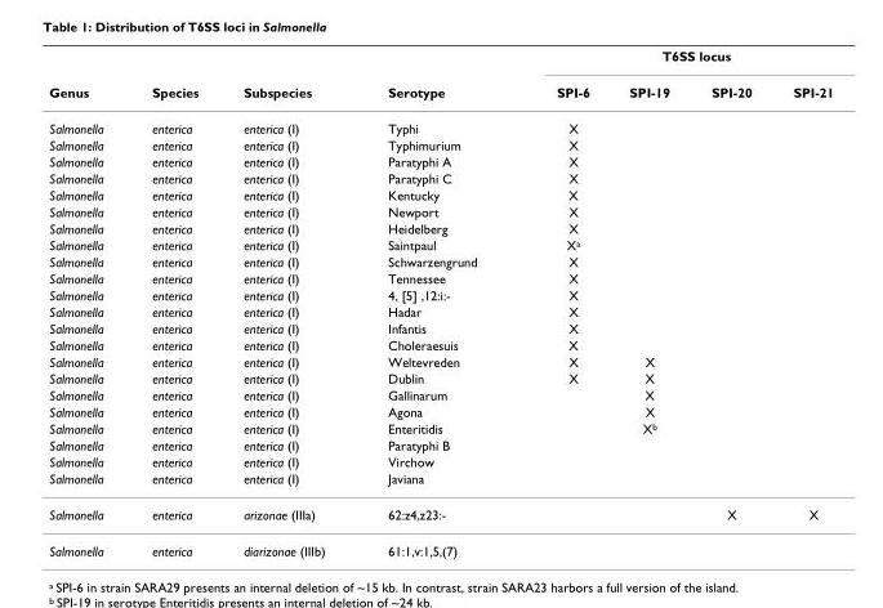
<table><thead><tr><td rowspan="2">Genus</td><td rowspan="2">Species</td><td rowspan="2">Subspecies</td><td rowspan="2">Serotype</td><td colspan="4">T6SS locus</td></tr><tr><td>SPI-6</td><td>SPI-19</td><td>SPI-20</td><td>SPI-21</td></tr></thead><tbody><tr><td>Salmonella</td><td>enterica</td><td>enterica (I)</td><td>Typhi</td><td>X</td><td></td><td></td><td></td></tr><tr><td>Salmonella</td><td>enterica</td><td>enterica (I)</td><td>Typhimurium</td><td>X</td><td></td><td></td><td></td></tr><tr><td>Salmonella</td><td>enterica</td><td>enterica (I)</td><td>Paratyphi A</td><td>X</td><td></td><td></td><td></td></tr><tr><td>Salmonella</td><td>enterica</td><td>enterica (I)</td><td>Paratyphi C</td><td>X</td><td></td><td></td><td></td></tr><tr><td>Salmonella</td><td>enterica</td><td>enterica (I)</td><td>Kentucky</td><td>X</td><td></td><td></td><td></td></tr><tr><td>Salmonella</td><td>enterica</td><td>enterica (I)</td><td>Newport</td><td>X</td><td></td><td></td><td></td></tr><tr><td>Salmonella</td><td>enterica</td><td>enterica (I)</td><td>Heidelberg</td><td>X</td><td></td><td></td><td></td></tr><tr><td>Salmonella</td><td>enterica</td><td>enterica (I)</td><td>Saintpaul</td><td>X<sup>a</sup></td><td></td><td></td><td></td></tr><tr><td>Salmonella</td><td>enterica</td><td>enterica (I)</td><td>Schwarzengrund</td><td>X</td><td></td><td></td><td></td></tr><tr><td>Salmonella</td><td>enterica</td><td>enterica (I)</td><td>Tennessee</td><td>X</td><td></td><td></td><td></td></tr><tr><td>Salmonella</td><td>enterica</td><td>enterica (I)</td><td>4, [5] ,12:i:-</td><td>X</td><td></td><td></td><td></td></tr><tr><td>Salmonella</td><td>enterica</td><td>enterica (I)</td><td>Hadar</td><td>X</td><td></td><td></td><td></td></tr><tr><td>Salmonella</td><td>enterica</td><td>enterica (I)</td><td>Infantis</td><td>X</td><td></td><td></td><td></td></tr><tr><td>Salmonella</td><td>enterica</td><td>enterica (I)</td><td>Choleraesuis</td><td>X</td><td></td><td></td><td></td></tr><tr><td>Salmonella</td><td>enterica</td><td>enterica (I)</td><td>Weltevreden</td><td>X</td><td>X</td><td></td><td></td></tr><tr><td>Salmonella</td><td>enterica</td><td>enterica (I)</td><td>Dublin</td><td>X</td><td>X</td><td></td><td></td></tr><tr><td>Salmonella</td><td>enterica</td><td>enterica (I)</td><td>Gallinarum</td><td></td><td>X</td><td></td><td></td></tr><tr><td>Salmonella</td><td>enterica</td><td>enterica (I)</td><td>Agona</td><td></td><td>X</td><td></td><td></td></tr><tr><td>Salmonella</td><td>enterica</td><td>enterica (I)</td><td>Enteritidis</td><td></td><td>X<sup>b</sup></td><td></td><td></td></tr><tr><td>Salmonella</td><td>enterica</td><td>enterica (I)</td><td>Paratyphi B</td><td></td><td></td><td></td><td></td></tr><tr><td>Salmonella</td><td>enterica</td><td>enterica (I)</td><td>Virchow</td><td></td><td></td><td></td><td></td></tr><tr><td>Salmonella</td><td>enterica</td><td>enterica (I)</td><td>Javiana</td><td></td><td></td><td></td><td></td></tr><tr><td>Salmonella</td><td>enterica</td><td>arizonae (IIIa)</td><td>62:z4,z23:-</td><td></td><td></td><td>X</td><td>X</td></tr><tr><td>Salmonella</td><td>enterica</td><td>diarizonae (IIIb)</td><td>61:1,v:1,5,(7)</td><td></td><td></td><td></td><td></td></tr></tbody></table>